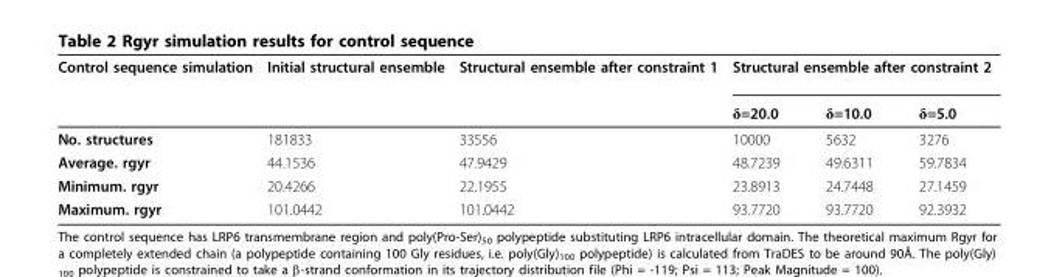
<table><thead><tr><td rowspan="2">Control sequence simulation</td><td rowspan="2">Initial structural ensemble</td><td rowspan="2">Structural ensemble after constraint 1</td><td colspan="3">Structural ensemble after constraint 2</td></tr><tr><td>δ=20.0</td><td>δ=10.0</td><td>δ=5.0</td></tr></thead><tbody><tr><td>No. structures</td><td>181833</td><td>33556</td><td>10000</td><td>5632</td><td>3276</td></tr><tr><td>Average. rgyr</td><td>44.1536</td><td>47.9429</td><td>48.7239</td><td>49.6311</td><td>59.7834</td></tr><tr><td>Minimum. rgyr</td><td>20.4266</td><td>22.1955</td><td>23.8913</td><td>24.7448</td><td>27.1459</td></tr><tr><td>Maximum. rgyr</td><td>101.0442</td><td>101.0442</td><td>93.7720</td><td>93.7720</td><td>92.3932</td></tr></tbody></table>